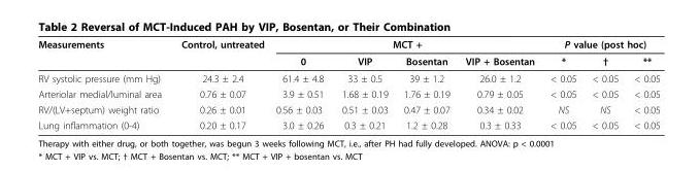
<table><thead><tr><td rowspan="2">Measurements</td><td rowspan="2">Control, untreated</td><td colspan="4">MCT +</td><td colspan="3">P value (post hoc)</td></tr><tr><td>0</td><td>VIP</td><td>Bosentan</td><td>VIP + Bosentan</td><td>*</td><td>†</td><td>**</td></tr></thead><tbody><tr><td>RV systolic pressure (mm Hg)</td><td>24.3 ± 2.4</td><td>61.4 ± 4.8</td><td>33 ± 0.5</td><td>39 ± 1.2</td><td>26.0 ± 1.2</td><td>&lt; 0.05</td><td>&lt; 0.05</td><td>&lt; 0.05</td></tr><tr><td>Arteriolar medial/luminal area</td><td>0.76 ± 0.07</td><td>3.9 ± 0.51</td><td>1.68 ± 0.19</td><td>1.76 ± 0.19</td><td>0.79 ± 0.05</td><td>&lt; 0.05</td><td>&lt; 0.05</td><td>&lt; 0.05</td></tr><tr><td>RV/(LV+septum) weight ratio</td><td>0.26 ± 0.01</td><td>0.56 ± 0.03</td><td>0.51 ± 0.03</td><td>0.47 ± 0.07</td><td>0.34 ± 0.02</td><td>NS</td><td>NS</td><td>&lt; 0.05</td></tr><tr><td>Lung inflammation (0-4)</td><td>0.20 ± 0.17</td><td>3.0 ± 0.26</td><td>0.3 ± 0.21</td><td>1.2 ± 0.28</td><td>0.3 ± 0.33</td><td>&lt; 0.05</td><td>&lt; 0.05</td><td>&lt; 0.05</td></tr></tbody></table>